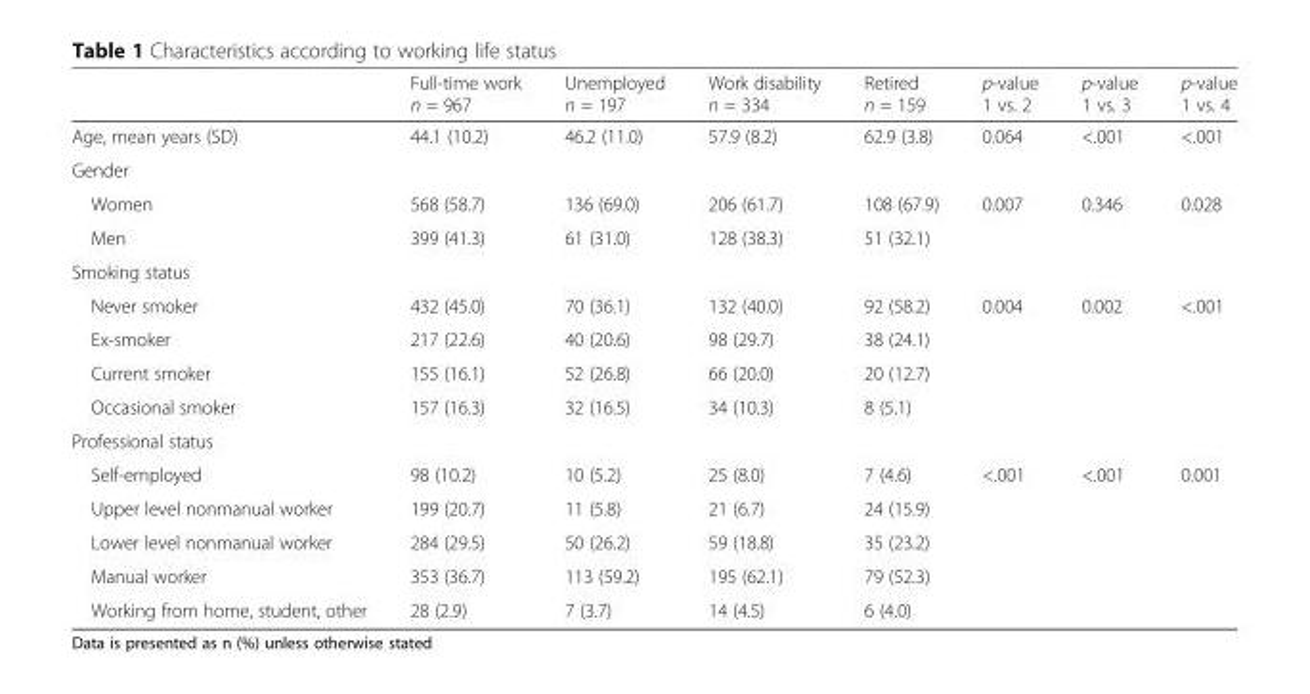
<table><thead><tr><td></td><td>Full-time work n = 967</td><td>Unemployed n = 197</td><td>Work disability n = 334</td><td>Retired n = 159</td><td>p-value 1 vs. 2</td><td>p-value 1 vs. 3</td><td>p-value 1 vs. 4</td></tr></thead><tbody><tr><td>Age, mean years (SD)</td><td>44.1 (10.2)</td><td>46.2 (11.0)</td><td>57.9 (8.2)</td><td>62.9 (3.8)</td><td>0.064</td><td>&lt;.001</td><td>&lt;.001</td></tr><tr><td colspan="8">Gender</td></tr><tr><td>Women</td><td>568 (58.7)</td><td>136 (69.0)</td><td>206 (61.7)</td><td>108 (67.9)</td><td rowspan="2">0.007</td><td rowspan="2">0.346</td><td rowspan="2">0.028</td></tr><tr><td>Men</td><td>399 (41.3)</td><td>61 (31.0)</td><td>128 (38.3)</td><td>51 (32.1)</td></tr><tr><td colspan="8">Smoking status</td></tr><tr><td>Never smoker</td><td>432 (45.0)</td><td>70 (36.1)</td><td>132 (40.0)</td><td>92 (58.2)</td><td rowspan="4">0.004</td><td rowspan="4">0.002</td><td rowspan="4">&lt;.001</td></tr><tr><td>Ex-smoker</td><td>217 (22.6)</td><td>40 (20.6)</td><td>98 (29.7)</td><td>38 (24.1)</td></tr><tr><td>Current smoker</td><td>155 (16.1)</td><td>52 (26.8)</td><td>66 (20.0)</td><td>20 (12.7)</td></tr><tr><td>Occasional smoker</td><td>157 (16.3)</td><td>32 (16.5)</td><td>34 (10.3)</td><td>8 (5.1)</td></tr><tr><td colspan="8">Professional status</td></tr><tr><td>Self-employed</td><td>98 (10.2)</td><td>10 (5.2)</td><td>25 (8.0)</td><td>7 (4.6)</td><td rowspan="5">&lt;.001</td><td rowspan="5">&lt;.001</td><td rowspan="5">0.001</td></tr><tr><td>Upper level nonmanual worker</td><td>199 (20.7)</td><td>11 (5.8)</td><td>21 (6.7)</td><td>24 (15.9)</td></tr><tr><td>Lower level nonmanual worker</td><td>284 (29.5)</td><td>50 (26.2)</td><td>59 (18.8)</td><td>35 (23.2)</td></tr><tr><td>Manual worker</td><td>353 (36.7)</td><td>113 (59.2)</td><td>195 (62.1)</td><td>79 (52.3)</td></tr><tr><td>Working from home, student, other</td><td>28 (2.9)</td><td>7 (3.7)</td><td>14 (4.5)</td><td>6 (4.0)</td></tr></tbody></table>